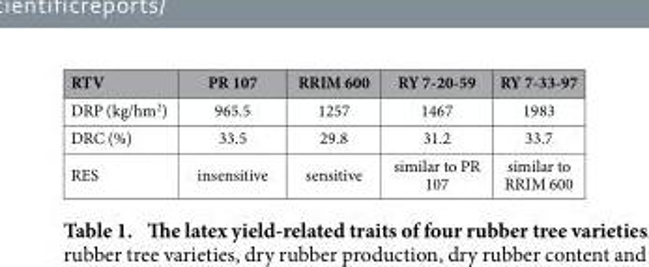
<table><thead><tr><td>RTV</td><td>PR 107</td><td>RRIM 600</td><td>RY 7-20-59</td><td>RY 7-33-97</td></tr></thead><tbody><tr><td>DRP (kg/hm<sup>2</sup>)</td><td>965.5</td><td>1257</td><td>1467</td><td>1983</td></tr><tr><td>DRC (%)</td><td>33.5</td><td>29.8</td><td>31.2</td><td>33.7</td></tr><tr><td>RES</td><td>insensitive</td><td>sensitive</td><td>similar to PR 107</td><td>similar to RRIM 600</td></tr></tbody></table>